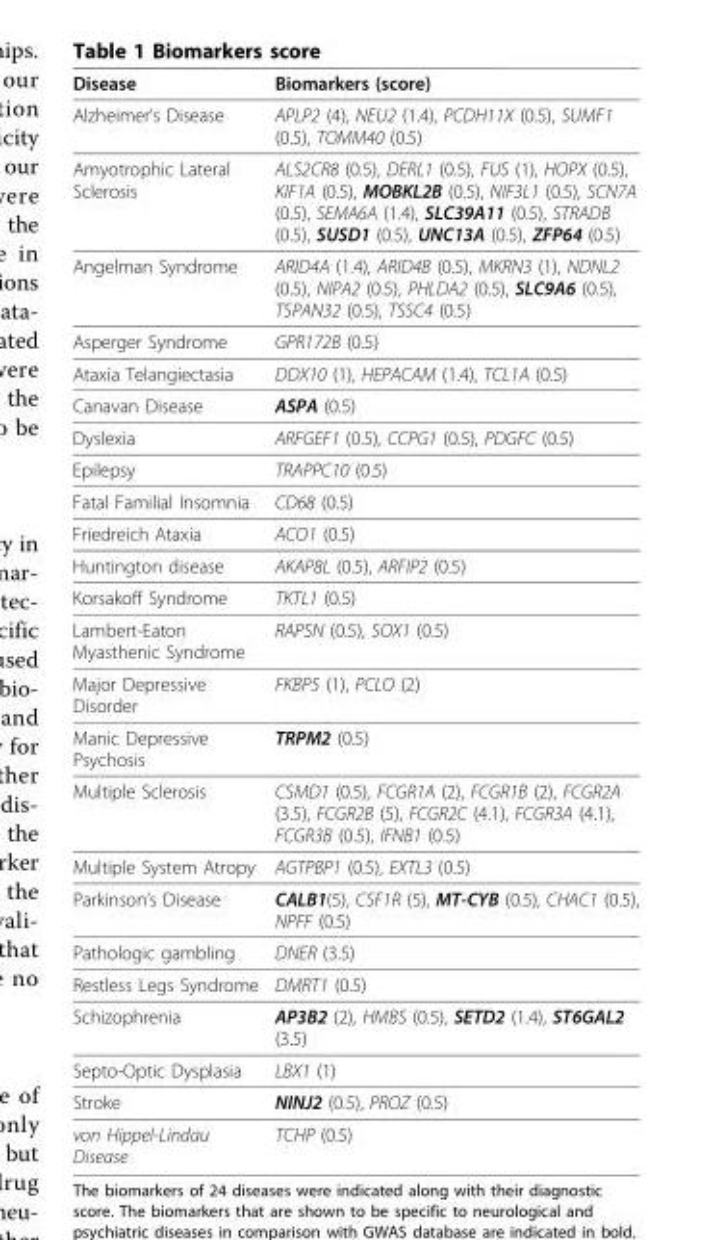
<table><thead><tr><td>Disease</td><td>Biomarkers (score)</td></tr></thead><tbody><tr><td>Alzheimer’s Disease</td><td>APLP2 (4), NEU2 (1.4), PCDH11X (0.5), SUMF1 (0.5), TOMM40 (0.5)</td></tr><tr><td>Amyotrophic Lateral Sclerosis</td><td>ALS2CR8 (0.5), DERL1 (0.5), FUS (1), HOPX (0.5), KIF1A (0.5), MOBKL2B (0.5), NIF3L1 (0.5), SCN7A (0.5), SEMA6A (1.4), SLC39A11 (0.5), STRADB (0.5), SUSD1 (0.5), UNC13A (0.5), ZFP64 (0.5)</td></tr><tr><td>Angelman Syndrome</td><td>ARID4A (1.4), ARID4B (0.5), MKRN3 (1), NDNL2 (0.5), NIPA2 (0.5), PHLDA2 (0.5), SLC9A6 (0.5), TSPAN32 (0.5), TSSC4 (0.5)</td></tr><tr><td>Asperger Syndrome</td><td>GPR172B (0.5)</td></tr><tr><td>Ataxia Telangiectasia</td><td>DDX10 (1), HEPACAM (1.4), TCL1A (0.5)</td></tr><tr><td>Canavan Disease</td><td>ASPA (0.5)</td></tr><tr><td>Dyslexia</td><td>ARFGEF1 (0.5), CCPG1 (0.5), PDGFC (0.5)</td></tr><tr><td>Epilepsy</td><td>TRAPPC10 (0.5)</td></tr><tr><td>Fatal Familial Insomnia</td><td>CD68 (0.5)</td></tr><tr><td>Friedreich Ataxia</td><td>ACO1 (0.5)</td></tr><tr><td>Huntington disease</td><td>AKAP8L (0.5), ARFIP2 (0.5)</td></tr><tr><td>Korsakoff Syndrome</td><td>TKTL1 (0.5)</td></tr><tr><td>Lambert-Eaton Myasthenic Syndrome</td><td>RAPSN (0.5), SOX1 (0.5)</td></tr><tr><td>Major Depressive Disorder</td><td>FKBP5 (1), PCLO (2)</td></tr><tr><td>Manic Depressive Psychosis</td><td>TRPM2 (0.5)</td></tr><tr><td>Multiple Sclerosis</td><td>CSMD1 (0.5), FCGR1A (2), FCGR1B (2), FCGR2A (3.5), FCGR2B (5), FCGR2C (4.1), FCGR3A (4.1), FCGR3B (0.5), IFNB1 (0.5)</td></tr><tr><td>Multiple System Atropy</td><td>AGTPBP1 (0.5), EXTL3 (0.5)</td></tr><tr><td>Parkinson’s Disease</td><td>CALB1(5), CSF1R (5), MT-CYB (0.5), CHAC1 (0.5), NPFF (0.5)</td></tr><tr><td>Pathologic gambling</td><td>DNER (3.5)</td></tr><tr><td>Restless Legs Syndrome</td><td>DMRT1 (0.5)</td></tr><tr><td>Schizophrenia</td><td>AP3B2 (2), HMBS (0.5), SETD2 (1.4), ST6GAL2 (3.5)</td></tr><tr><td>Septo-Optic Dysplasia</td><td>LBX1 (1)</td></tr><tr><td>Stroke</td><td>NINJ2 (0.5), PROZ (0.5)</td></tr><tr><td>von Hippel-Lindau Disease</td><td>TCHP (0.5)</td></tr></tbody></table>